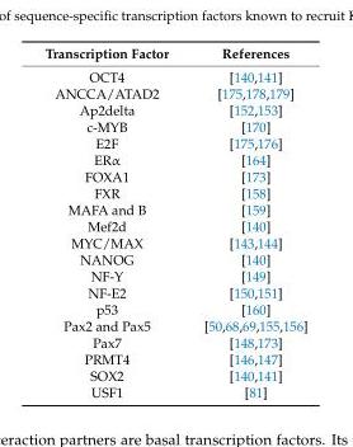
<table><thead><tr><td>Transcription Factor</td><td>References</td></tr></thead><tbody><tr><td>OCT4</td><td>[140,141]</td></tr><tr><td>ANCCA/ATAD2</td><td>[175,178,179]</td></tr><tr><td>Ap2delta</td><td>[152,153]</td></tr><tr><td>c-MYB</td><td>[170]</td></tr><tr><td>E2F</td><td>[175,176]</td></tr><tr><td>ERα</td><td>[164]</td></tr><tr><td>FOXA1</td><td>[173]</td></tr><tr><td>FXR</td><td>[158]</td></tr><tr><td>MAFA and B</td><td>[159]</td></tr><tr><td>Mef2d</td><td>[140]</td></tr><tr><td>MYC/MAX</td><td>[143,144]</td></tr><tr><td>NANOG</td><td>[140]</td></tr><tr><td>NF-Y</td><td>[149]</td></tr><tr><td>NF-E2</td><td>[150,151]</td></tr><tr><td>p53</td><td>[160]</td></tr><tr><td>Pax2 and Pax5</td><td>[50,68,69,155,156]</td></tr><tr><td>Pax7</td><td>[148,173]</td></tr><tr><td>PRMT4</td><td>[146,147]</td></tr><tr><td>SOX2</td><td>[140,141]</td></tr><tr><td>USF1</td><td>[81]</td></tr></tbody></table>